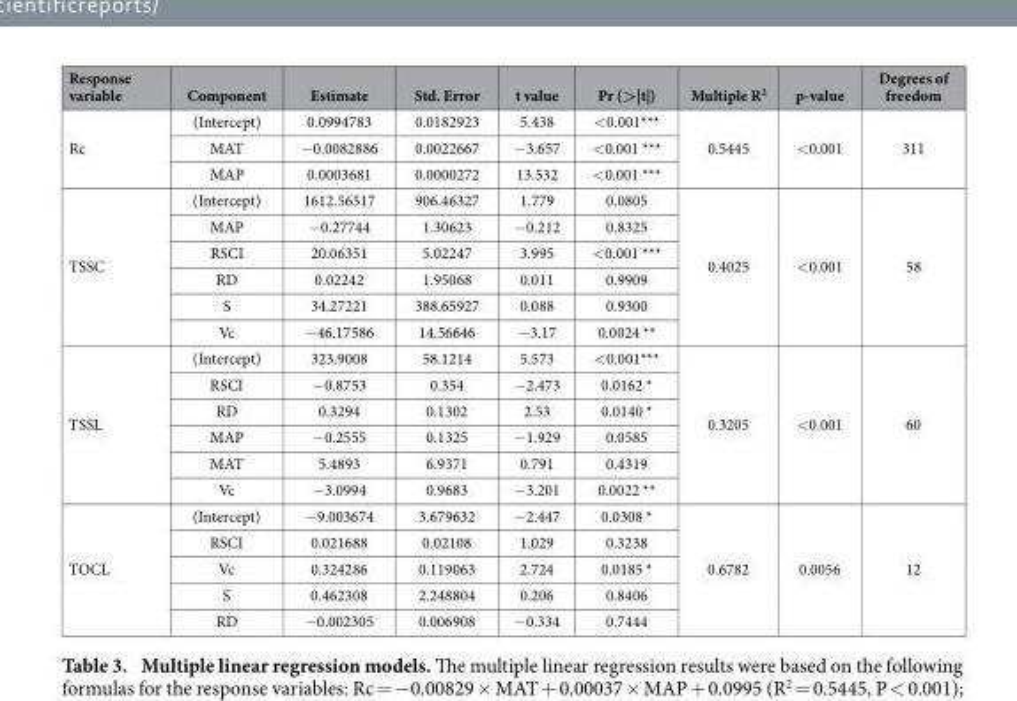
<table><thead><tr><td>Response variable</td><td>Component</td><td>Estimate</td><td>Std. Error</td><td>t value</td><td>Pr (&gt;|t|)</td><td>Multiple R<sup>2</sup></td><td>p-value</td><td>Degrees of freedom</td></tr></thead><tbody><tr><td rowspan="3">Rc</td><td>(Intercept)</td><td>0.0994783</td><td>0.0182923</td><td>5.438</td><td>&lt; 0.001***</td><td rowspan="3">0.5445</td><td rowspan="3">&lt; 0.001</td><td rowspan="3">311</td></tr><tr><td>MAT</td><td>− 0.0082886</td><td>0.0022667</td><td>− 3.657</td><td>&lt; 0.001 ***</td></tr><tr><td>MAP</td><td>0.0003681</td><td>0.0000272</td><td>13.532</td><td>&lt; 0.001 ***</td></tr><tr><td rowspan="6">TSSC</td><td>(Intercept)</td><td>1612.56517</td><td>906.46327</td><td>1.779</td><td>0.0805</td><td rowspan="6">0.4025</td><td rowspan="6">&lt; 0.001</td><td rowspan="6">58</td></tr><tr><td>MAP</td><td>− 0.27744</td><td>1.30623</td><td>− 0.212</td><td>0.8325</td></tr><tr><td>RSCI</td><td>20.06351</td><td>5.02247</td><td>3.995</td><td>&lt; 0.001 ***</td></tr><tr><td>RD</td><td>0.02242</td><td>1.95068</td><td>0.011</td><td>0.9909</td></tr><tr><td>S</td><td>34.27221</td><td>388.65927</td><td>0.088</td><td>0.9300</td></tr><tr><td>Vc</td><td>− 46.17586</td><td>14.56646</td><td>− 3.17</td><td>0.0024 **</td></tr><tr><td rowspan="6">TSSL</td><td>(Intercept)</td><td>323.9008</td><td>58.1214</td><td>5.573</td><td>&lt; 0.001***</td><td rowspan="6">0.3205</td><td rowspan="6">&lt; 0.001</td><td rowspan="6">60</td></tr><tr><td>RSCI</td><td>− 0.8753</td><td>0.354</td><td>− 2.473</td><td>0.0162 *</td></tr><tr><td>RD</td><td>0.3294</td><td>0.1302</td><td>2.53</td><td>0.0140 *</td></tr><tr><td>MAP</td><td>− 0.2555</td><td>0.1325</td><td>− 1.929</td><td>0.0585</td></tr><tr><td>MAT</td><td>5.4893</td><td>6.9371</td><td>0.791</td><td>0.4319</td></tr><tr><td>Vc</td><td>− 3.0994</td><td>0.9683</td><td>− 3.201</td><td>0.0022 **</td></tr><tr><td rowspan="5">TOCL</td><td>(Intercept)</td><td>− 9.003674</td><td>3.679632</td><td>− 2.447</td><td>0.0308 *</td><td rowspan="5">0.6782</td><td rowspan="5">0.0056</td><td rowspan="5">12</td></tr><tr><td>RSCI</td><td>0.021688</td><td>0.02108</td><td>1.029</td><td>0.3238</td></tr><tr><td>Vc</td><td>0.324286</td><td>0.119063</td><td>2.724</td><td>0.0185 *</td></tr><tr><td>S</td><td>0.462308</td><td>2.248804</td><td>0.206</td><td>0.8406</td></tr><tr><td>RD</td><td>− 0.002305</td><td>0.006908</td><td>− 0.334</td><td>0.7444</td></tr></tbody></table>